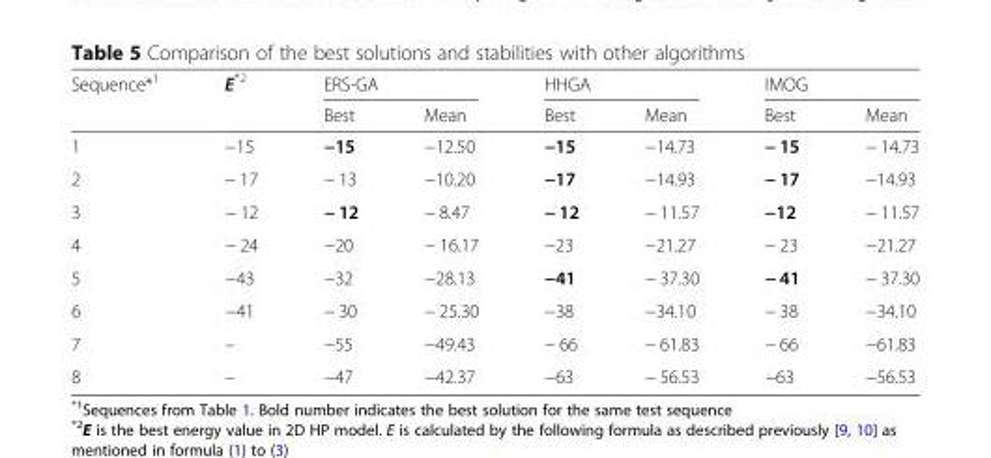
<table><thead><tr><td rowspan="2">Sequence*<sup>1</sup></td><td rowspan="2">E<sup>*2</sup></td><td colspan="2">ERS-GA</td><td colspan="2">HHGA</td><td colspan="2">IMOG</td></tr><tr><td>Best</td><td>Mean</td><td>Best</td><td>Mean</td><td>Best</td><td>Mean</td></tr></thead><tbody><tr><td>1</td><td>−15</td><td>−15</td><td>−12.50</td><td>−15</td><td>−14.73</td><td>− 15</td><td>− 14.73</td></tr><tr><td>2</td><td>− 17</td><td>− 13</td><td>−10.20</td><td>−17</td><td>−14.93</td><td>− 17</td><td>−14.93</td></tr><tr><td>3</td><td>− 12</td><td>− 12</td><td>− 8.47</td><td>− 12</td><td>− 11.57</td><td>−12</td><td>− 11.57</td></tr><tr><td>4</td><td>− 24</td><td>−20</td><td>− 16.17</td><td>−23</td><td>−21.27</td><td>− 23</td><td>−21.27</td></tr><tr><td>5</td><td>−43</td><td>−32</td><td>−28.13</td><td>−41</td><td>− 37.30</td><td>− 41</td><td>− 37.30</td></tr><tr><td>6</td><td>−41</td><td>− 30</td><td>− 25.30</td><td>−38</td><td>−34.10</td><td>− 38</td><td>−34.10</td></tr><tr><td>7</td><td>–</td><td>−55</td><td>−49.43</td><td>− 66</td><td>− 61.83</td><td>− 66</td><td>−61.83</td></tr><tr><td>8</td><td>–</td><td>−47</td><td>−42.37</td><td>−63</td><td>− 56.53</td><td>−63</td><td>−56.53</td></tr></tbody></table>